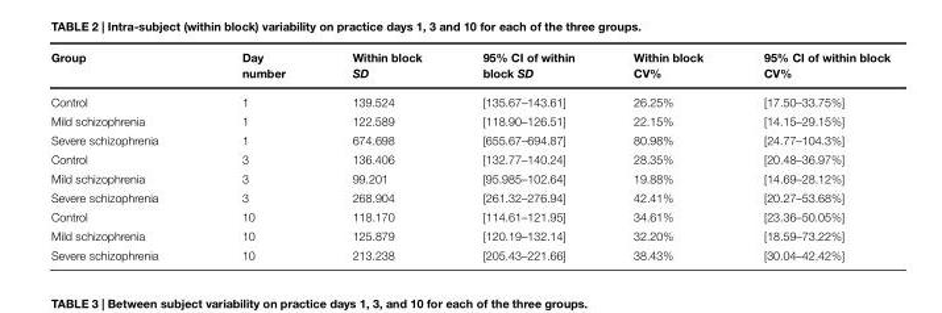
<table><thead><tr><td>Group</td><td>Day number</td><td>Within block SD</td><td>95% CI of within block SD</td><td>Within block CV%</td><td>95% CI of within block CV%</td></tr></thead><tbody><tr><td>Control</td><td>1</td><td>139.524</td><td>[135.67–143.61]</td><td>26.25%</td><td>[17.50–33.75%]</td></tr><tr><td>Mild schizophrenia</td><td>1</td><td>122.589</td><td>[118.90–126.51]</td><td>22.15%</td><td>[14.15–29.15%]</td></tr><tr><td>Severe schizophrenia</td><td>1</td><td>674.698</td><td>[655.67–694.87]</td><td>80.98%</td><td>[24.77–104.3%]</td></tr><tr><td>Control</td><td>3</td><td>136.406</td><td>[132.77–140.24]</td><td>28.35%</td><td>[20.48–36.97%]</td></tr><tr><td>Mild schizophrenia</td><td>3</td><td>99.201</td><td>[95.985–102.64]</td><td>19.88%</td><td>[14.69–28.12%]</td></tr><tr><td>Severe schizophrenia</td><td>3</td><td>268.904</td><td>[261.32–276.94]</td><td>42.41%</td><td>[20.27–53.68%]</td></tr><tr><td>Control</td><td>10</td><td>118.170</td><td>[114.61–121.95]</td><td>34.61%</td><td>[23.36–50.05%]</td></tr><tr><td>Mild schizophrenia</td><td>10</td><td>125.879</td><td>[120.19–132.14]</td><td>32.20%</td><td>[18.59–73.22%]</td></tr><tr><td>Severe schizophrenia</td><td>10</td><td>213.238</td><td>[205.43–221.66]</td><td>38.43%</td><td>[30.04–42.42%]</td></tr></tbody></table>